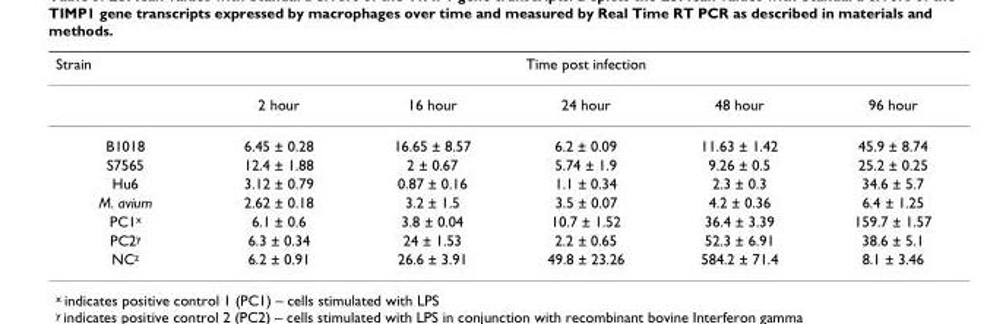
<table><thead><tr><td rowspan="2">Strain</td><td colspan="5">Time post infection</td></tr><tr><td>2 hour</td><td>16 hour</td><td>24 hour</td><td>48 hour</td><td>96 hour</td></tr></thead><tbody><tr><td>B1018</td><td>6.45 ± 0.28</td><td>16.65 ± 8.57</td><td>6.2 ± 0.09</td><td>11.63 ± 1.42</td><td>45.9 ± 8.74</td></tr><tr><td>S7565</td><td>12.4 ± 1.88</td><td>2 ± 0.67</td><td>5.74 ± 1.9</td><td>9.26 ± 0.5</td><td>25.2 ± 0.25</td></tr><tr><td>Hu6</td><td>3.12 ± 0.79</td><td>0.87 ± 0.16</td><td>1.1 ± 0.34</td><td>2.3 ± 0.3</td><td>34.6 ± 5.7</td></tr><tr><td>M. avium</td><td>2.62 ± 0.18</td><td>3.2 ± 1.5</td><td>3.5 ± 0.07</td><td>4.2 ± 0.36</td><td>6.4 ± 1.25</td></tr><tr><td>PC1x</td><td>6.1 ± 0.6</td><td>3.8 ± 0.04</td><td>10.7 ± 1.52</td><td>36.4 ± 3.39</td><td>159.7 ± 1.57</td></tr><tr><td>PC2y</td><td>6.3 ± 0.34</td><td>24 ± 1.53</td><td>2.2 ± 0.65</td><td>52.3 ± 6.91</td><td>38.6 ± 5.1</td></tr><tr><td>NCz</td><td>6.2 ± 0.91</td><td>26.6 ± 3.91</td><td>49.8 ± 23.26</td><td>584.2 ± 71.4</td><td>8.1 ± 3.46</td></tr></tbody></table>